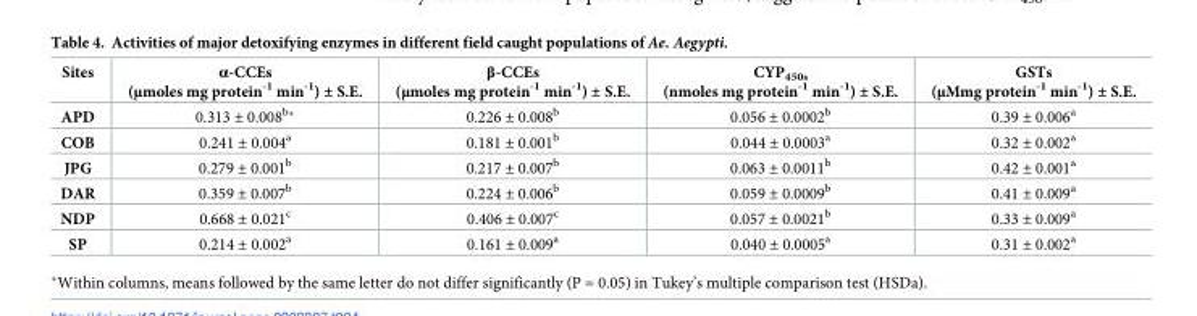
<table><thead><tr><td>Sites</td><td>α-CCEs (μmoles mg protein<sup>-1</sup> min<sup>-1</sup>) ± S.E.</td><td>β-CCEs (μmoles mg protein<sup>-1</sup> min<sup>-1</sup>) ± S.E.</td><td>CYP<sub>450s</sub> (nmoles mg protein<sup>-1</sup> min<sup>-1</sup>) ± S.E.</td><td>GSTs (μMmg protein<sup>-1</sup> min<sup>-1</sup>) ± S.E.</td></tr></thead><tbody><tr><td>APD</td><td>0.313 ± 0.008<sup>b</sup>*</td><td>0.226 ± 0.008<sup>b</sup></td><td>0.056 ± 0.0002<sup>b</sup></td><td>0.39 ± 0.006<sup>a</sup></td></tr><tr><td>COB</td><td>0.241 ± 0.004<sup>a</sup></td><td>0.181 ± 0.001<sup>b</sup></td><td>0.044 ± 0.0003<sup>a</sup></td><td>0.32 ± 0.002<sup>a</sup></td></tr><tr><td>JPG</td><td>0.279 ± 0.001<sup>b</sup></td><td>0.217 ± 0.007<sup>b</sup></td><td>0.063 ± 0.0011<sup>b</sup></td><td>0.42 ± 0.001<sup>a</sup></td></tr><tr><td>DAR</td><td>0.359 ± 0.007<sup>b</sup></td><td>0.224 ± 0.006<sup>b</sup></td><td>0.059 ± 0.0009<sup>b</sup></td><td>0.41 ± 0.009<sup>a</sup></td></tr><tr><td>NDP</td><td>0.668 ± 0.021<sup>c</sup></td><td>0.406 ± 0.007<sup>c</sup></td><td>0.057 ± 0.0021<sup>b</sup></td><td>0.33 ± 0.009<sup>a</sup></td></tr><tr><td>SP</td><td>0.214 ± 0.002<sup>a</sup></td><td>0.161 ± 0.009<sup>a</sup></td><td>0.040 ± 0.0005<sup>a</sup></td><td>0.31 ± 0.002<sup>a</sup></td></tr></tbody></table>